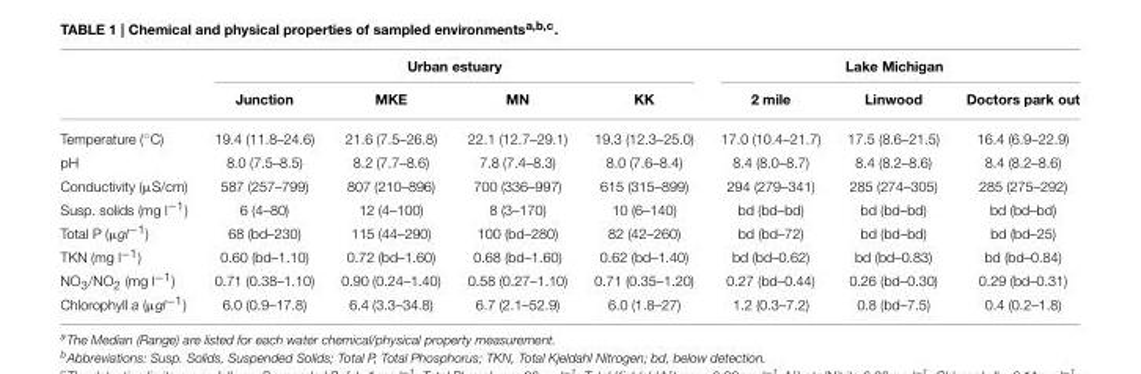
<table><thead><tr><td rowspan="2"></td><td colspan="4">Urban estuary</td><td colspan="3">Lake Michigan</td></tr><tr><td>Junction</td><td>MKE</td><td>MN</td><td>KK</td><td>2 mile</td><td>Linwood</td><td>Doctors park out</td></tr></thead><tbody><tr><td>Temperature (◦C)</td><td>19.4 (11.8–24.6)</td><td>21.6 (7.5–26.8)</td><td>22.1 (12.7–29.1)</td><td>19.3 (12.3–25.0)</td><td>17.0 (10.4–21.7)</td><td>17.5 (8.6–21.5)</td><td>16.4 (6.9–22.9)</td></tr><tr><td>pH</td><td>8.0 (7.5–8.5)</td><td>8.2 (7.7–8.6)</td><td>7.8 (7.4–8.3)</td><td>8.0 (7.6–8.4)</td><td>8.4 (8.0–8.7)</td><td>8.4 (8.2–8.6)</td><td>8.4 (8.2–8.6)</td></tr><tr><td>Conductivity (µS/cm)</td><td>587 (257–799)</td><td>807 (210–896)</td><td>700 (336–997)</td><td>615 (315–899)</td><td>294 (279–341)</td><td>285 (274–305)</td><td>285 (275–292)</td></tr><tr><td>Susp. solids (mg l<sup>−1</sup>)</td><td>6 (4–80)</td><td>12 (4–100)</td><td>8 (3–170)</td><td>10 (6–140)</td><td>bd (bd–bd)</td><td>bd (bd–bd)</td><td>bd (bd–bd)</td></tr><tr><td>Total P (µgl<sup>−1</sup>)</td><td>68 (bd–230)</td><td>115 (44–290)</td><td>100 (bd–280)</td><td>82 (42–260)</td><td>bd (bd–72)</td><td>bd (bd–bd)</td><td>bd (bd–25)</td></tr><tr><td>TKN (mg l<sup>−1</sup>)</td><td>0.60 (bd–1.10)</td><td>0.72 (bd–1.60)</td><td>0.68 (bd–1.60)</td><td>0.62 (bd–1.40)</td><td>bd (bd–0.62)</td><td>bd (bd–0.83)</td><td>bd (bd–0.84)</td></tr><tr><td>NO<sub>3</sub>/NO<sub>2</sub> (mg l<sup>−1</sup>)</td><td>0.71 (0.38–1.10)</td><td>0.90 (0.24–1.40)</td><td>0.58 (0.27–1.10)</td><td>0.71 (0.35–1.20)</td><td>0.27 (bd–0.44)</td><td>0.26 (bd–0.30)</td><td>0.29 (bd–0.31)</td></tr><tr><td>Chlorophyll a (µgl<sup>−1</sup>)</td><td>6.0 (0.9–17.8)</td><td>6.4 (3.3–34.8)</td><td>6.7 (2.1–52.9)</td><td>6.0 (1.8–27)</td><td>1.2 (0.3–7.2)</td><td>0.8 (bd–7.5)</td><td>0.4 (0.2–1.8)</td></tr></tbody></table>